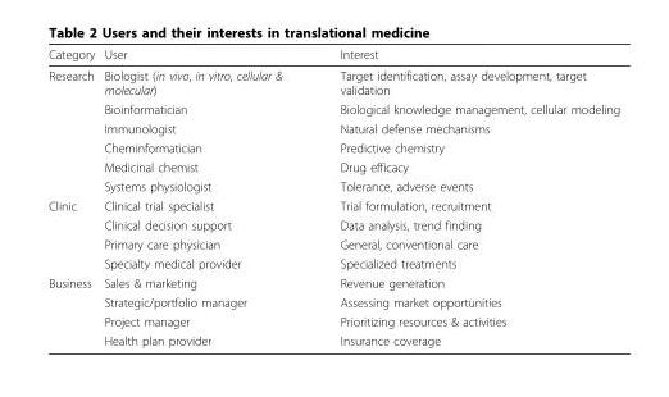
<table><thead><tr><td>Category</td><td>User</td><td>Interest</td></tr></thead><tbody><tr><td rowspan="6">Research</td><td>Biologist (in vivo, in vitro, cellular &amp; molecular)</td><td>Target identification, assay development, target validation</td></tr><tr><td>Bioinformatician</td><td>Biological knowledge management, cellular modeling</td></tr><tr><td>Immunologist</td><td>Natural defense mechanisms</td></tr><tr><td>Cheminformatician</td><td>Predictive chemistry</td></tr><tr><td>Medicinal chemist</td><td>Drug efficacy</td></tr><tr><td>Systems physiologist</td><td>Tolerance, adverse events</td></tr><tr><td rowspan="4">Clinic</td><td>Clinical trial specialist</td><td>Trial formulation, recruitment</td></tr><tr><td>Clinical decision support</td><td>Data analysis, trend finding</td></tr><tr><td>Primary care physician</td><td>General, conventional care</td></tr><tr><td>Specialty medical provider</td><td>Specialized treatments</td></tr><tr><td rowspan="4">Business</td><td>Sales &amp; marketing</td><td>Revenue generation</td></tr><tr><td>Strategic/portfolio manager</td><td>Assessing market opportunities</td></tr><tr><td>Project manager</td><td>Prioritizing resources &amp; activities</td></tr><tr><td>Health plan provider</td><td>Insurance coverage</td></tr></tbody></table>